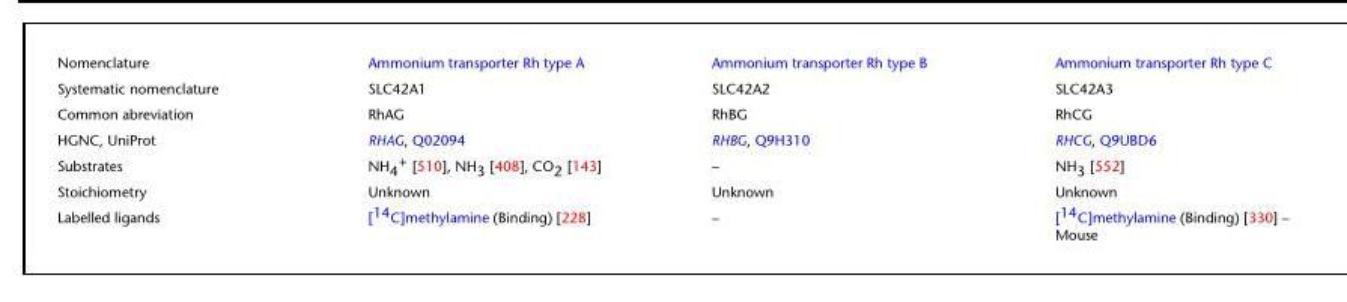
<table><tbody><tr><td>Nomenclature</td><td>Ammonium transporter Rh type A</td><td>Ammonium transporter Rh type B</td><td>Ammonium transporter Rh type C</td></tr><tr><td>Systematic nomenclature</td><td>SLC42A1</td><td>SLC42A2</td><td>SLC42A3</td></tr><tr><td>Common abreviation</td><td>RhAG</td><td>RhBG</td><td>RhCG</td></tr><tr><td>HGNC, UniProt</td><td>RHAG, Q02094</td><td>RHBG, Q9H310</td><td>RHCG, Q9UBD6</td></tr><tr><td>Substrates</td><td>NH<sub>4</sub><sup>+</sup> [510], NH<sub>3</sub> [408], CO<sub>2</sub> [143]</td><td>–</td><td>NH<sub>3</sub> [552]</td></tr><tr><td>Stoichiometry</td><td>Unknown</td><td>Unknown</td><td>Unknown</td></tr><tr><td>Labelled ligands</td><td>[<sup>14</sup>C]methylamine (Binding) [228]</td><td>–</td><td>[<sup>14</sup>C]methylamine (Binding) [330] – Mouse</td></tr></tbody></table>